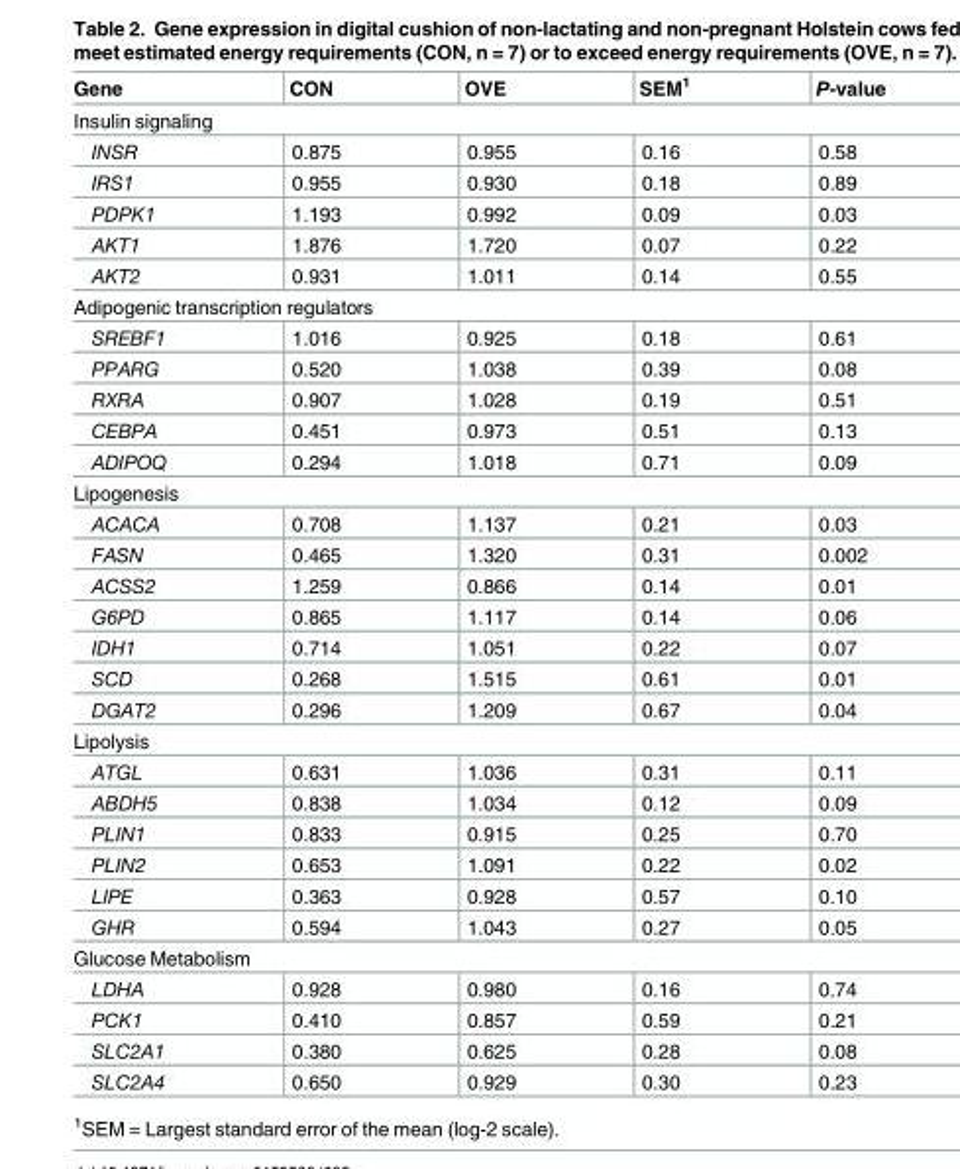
<table><thead><tr><td>Gene</td><td>CON</td><td>OVE</td><td>SEM<sup>1</sup></td><td>P-value</td></tr></thead><tbody><tr><td colspan="5">Insulin signaling</td></tr><tr><td>INSR</td><td>0.875</td><td>0.955</td><td>0.16</td><td>0.58</td></tr><tr><td>IRS1</td><td>0.955</td><td>0.930</td><td>0.18</td><td>0.89</td></tr><tr><td>PDPK1</td><td>1.193</td><td>0.992</td><td>0.09</td><td>0.03</td></tr><tr><td>AKT1</td><td>1.876</td><td>1.720</td><td>0.07</td><td>0.22</td></tr><tr><td>AKT2</td><td>0.931</td><td>1.011</td><td>0.14</td><td>0.55</td></tr><tr><td colspan="5">Adipogenic transcription regulators</td></tr><tr><td>SREBF1</td><td>1.016</td><td>0.925</td><td>0.18</td><td>0.61</td></tr><tr><td>PPARG</td><td>0.520</td><td>1.038</td><td>0.39</td><td>0.08</td></tr><tr><td>RXRA</td><td>0.907</td><td>1.028</td><td>0.19</td><td>0.51</td></tr><tr><td>CEBPA</td><td>0.451</td><td>0.973</td><td>0.51</td><td>0.13</td></tr><tr><td>ADIPOQ</td><td>0.294</td><td>1.018</td><td>0.71</td><td>0.09</td></tr><tr><td colspan="5">Lipogenesis</td></tr><tr><td>ACACA</td><td>0.708</td><td>1.137</td><td>0.21</td><td>0.03</td></tr><tr><td>FASN</td><td>0.465</td><td>1.320</td><td>0.31</td><td>0.002</td></tr><tr><td>ACSS2</td><td>1.259</td><td>0.866</td><td>0.14</td><td>0.01</td></tr><tr><td>G6PD</td><td>0.865</td><td>1.117</td><td>0.14</td><td>0.06</td></tr><tr><td>IDH1</td><td>0.714</td><td>1.051</td><td>0.22</td><td>0.07</td></tr><tr><td>SCD</td><td>0.268</td><td>1.515</td><td>0.61</td><td>0.01</td></tr><tr><td>DGAT2</td><td>0.296</td><td>1.209</td><td>0.67</td><td>0.04</td></tr><tr><td colspan="5">Lipolysis</td></tr><tr><td>ATGL</td><td>0.631</td><td>1.036</td><td>0.31</td><td>0.11</td></tr><tr><td>ABDH5</td><td>0.838</td><td>1.034</td><td>0.12</td><td>0.09</td></tr><tr><td>PLIN1</td><td>0.833</td><td>0.915</td><td>0.25</td><td>0.70</td></tr><tr><td>PLIN2</td><td>0.653</td><td>1.091</td><td>0.22</td><td>0.02</td></tr><tr><td>LIPE</td><td>0.363</td><td>0.928</td><td>0.57</td><td>0.10</td></tr><tr><td>GHR</td><td>0.594</td><td>1.043</td><td>0.27</td><td>0.05</td></tr><tr><td colspan="5">Glucose Metabolism</td></tr><tr><td>LDHA</td><td>0.928</td><td>0.980</td><td>0.16</td><td>0.74</td></tr><tr><td>PCK1</td><td>0.410</td><td>0.857</td><td>0.59</td><td>0.21</td></tr><tr><td>SLC2A1</td><td>0.380</td><td>0.625</td><td>0.28</td><td>0.08</td></tr><tr><td>SLC2A4</td><td>0.650</td><td>0.929</td><td>0.30</td><td>0.23</td></tr></tbody></table>